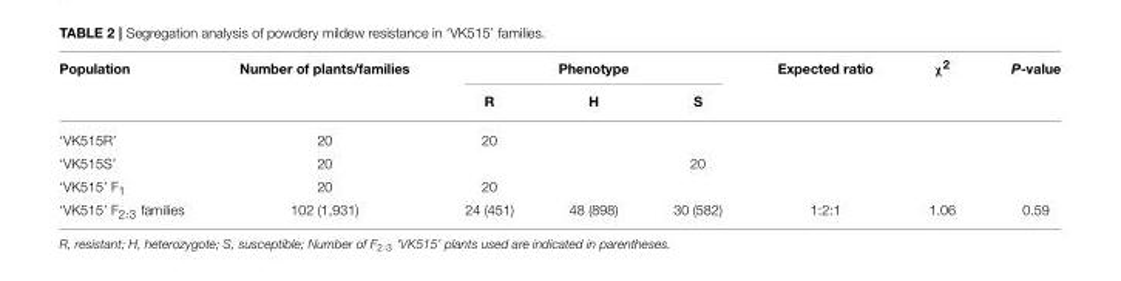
<table><thead><tr><td rowspan="2">Population</td><td rowspan="2">Number of plants/families</td><td colspan="3">Phenotype</td><td rowspan="2">Expected ratio</td><td rowspan="2">χ<sup>2</sup></td><td rowspan="2">P-value</td></tr><tr><td>R</td><td>H</td><td>S</td></tr></thead><tbody><tr><td>‘VK515R’</td><td>20</td><td>20</td><td></td><td></td><td></td><td></td><td></td></tr><tr><td>‘VK515S’</td><td>20</td><td></td><td></td><td>20</td><td></td><td></td><td></td></tr><tr><td>‘VK515’ F<sub>1</sub></td><td>20</td><td>20</td><td></td><td></td><td></td><td></td><td></td></tr><tr><td>‘VK515’ F<sub>2:3</sub> families</td><td>102 (1,931)</td><td>24 (451)</td><td>48 (898)</td><td>30 (582)</td><td>1:2:1</td><td>1.06</td><td>0.59</td></tr></tbody></table>